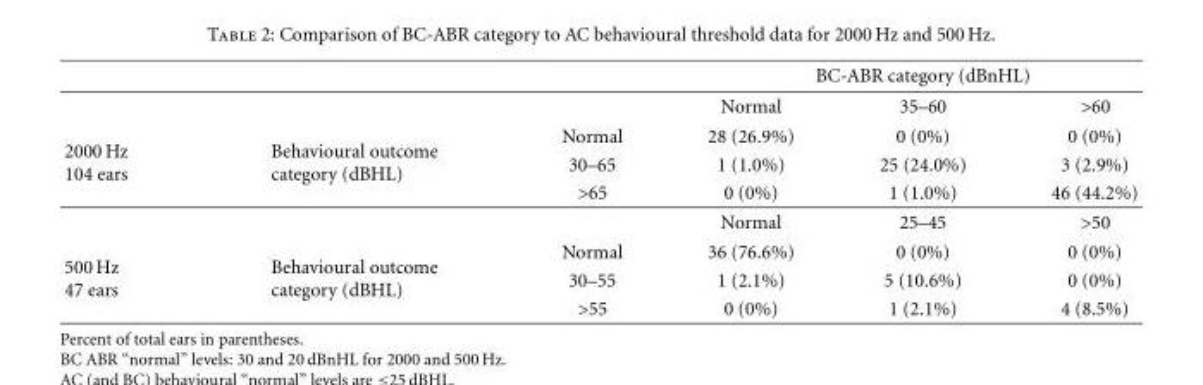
<table><thead><tr><td rowspan="2"></td><td rowspan="2"></td><td rowspan="2"></td><td colspan="3">BC-ABR category (dBnHL)</td></tr><tr><td>Normal</td><td>35–60</td><td>&gt;60</td></tr></thead><tbody><tr><td rowspan="4">2000 Hz 104 ears</td><td rowspan="3">Behavioural outcome category (dBHL)</td><td>Normal</td><td>28 (26.9%)</td><td>0 (0%)</td><td>0 (0%)</td></tr><tr><td>30–65</td><td>1 (1.0%)</td><td>25 (24.0%)</td><td>3 (2.9%)</td></tr><tr><td>&gt;65</td><td>0 (0%)</td><td>1 (1.0%)</td><td>46 (44.2%)</td></tr><tr><td></td><td></td><td>Normal</td><td>25–45</td><td>&gt;50</td></tr><tr><td rowspan="3">500 Hz 47 ears</td><td rowspan="3">Behavioural outcome category (dBHL)</td><td>Normal</td><td>36 (76.6%)</td><td>0 (0%)</td><td>0 (0%)</td></tr><tr><td>30–55</td><td>1 (2.1%)</td><td>5 (10.6%)</td><td>0 (0%)</td></tr><tr><td>&gt;55</td><td>0 (0%)</td><td>1 (2.1%)</td><td>4 (8.5%)</td></tr></tbody></table>